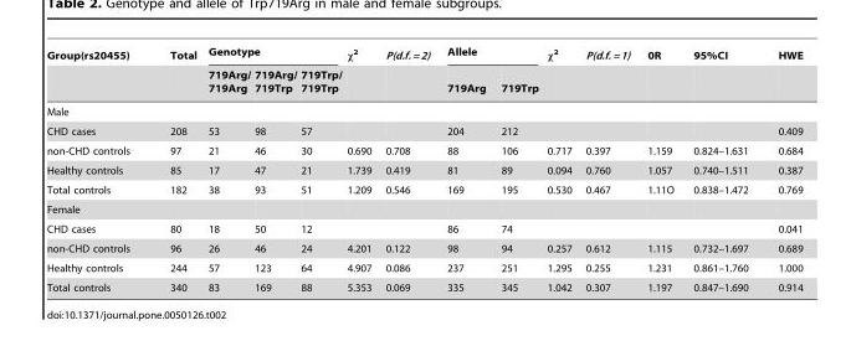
<table><thead><tr><td rowspan="2">Group(rs20455)</td><td rowspan="2">Total</td><td colspan="3">Genotype</td><td rowspan="2">x2</td><td rowspan="2">P(d.f. = 2)</td><td colspan="2">Allele</td><td rowspan="2">x2</td><td rowspan="2">P(d.f. = 1)</td><td rowspan="2">0R</td><td rowspan="2">95%CI</td><td rowspan="2">HWE</td></tr><tr><td>719Arg/ 719Arg</td><td>719Arg/ 719Trp</td><td>719Trp/ 719Trp</td><td>719Arg</td><td>719Trp</td></tr></thead><tbody><tr><td colspan="14">Male</td></tr><tr><td>CHD cases</td><td>208</td><td>53</td><td>98</td><td>57</td><td></td><td></td><td>204</td><td>212</td><td></td><td></td><td></td><td></td><td>0.409</td></tr><tr><td>non-CHD controls</td><td>97</td><td>21</td><td>46</td><td>30</td><td>0.690</td><td>0.708</td><td>88</td><td>106</td><td>0.717</td><td>0.397</td><td>1.159</td><td>0.824–1.631</td><td>0.684</td></tr><tr><td>Healthy controls</td><td>85</td><td>17</td><td>47</td><td>21</td><td>1.739</td><td>0.419</td><td>81</td><td>89</td><td>0.094</td><td>0.760</td><td>1.057</td><td>0.740–1.511</td><td>0.387</td></tr><tr><td>Total controls</td><td>182</td><td>38</td><td>93</td><td>51</td><td>1.209</td><td>0.546</td><td>169</td><td>195</td><td>0.530</td><td>0.467</td><td>1.11O</td><td>0.838–1.472</td><td>0.769</td></tr><tr><td colspan="14">Female</td></tr><tr><td>CHD cases</td><td>80</td><td>18</td><td>50</td><td>12</td><td></td><td></td><td>86</td><td>74</td><td></td><td></td><td></td><td></td><td>0.041</td></tr><tr><td>non-CHD controls</td><td>96</td><td>26</td><td>46</td><td>24</td><td>4.201</td><td>0.122</td><td>98</td><td>94</td><td>0.257</td><td>0.612</td><td>1.115</td><td>0.732–1.697</td><td>0.689</td></tr><tr><td>Healthy controls</td><td>244</td><td>57</td><td>123</td><td>64</td><td>4.907</td><td>0.086</td><td>237</td><td>251</td><td>1.295</td><td>0.255</td><td>1.231</td><td>0.861–1.760</td><td>1.000</td></tr><tr><td>Total controls</td><td>340</td><td>83</td><td>169</td><td>88</td><td>5.353</td><td>0.069</td><td>335</td><td>345</td><td>1.042</td><td>0.307</td><td>1.197</td><td>0.847–1.690</td><td>0.914</td></tr></tbody></table>